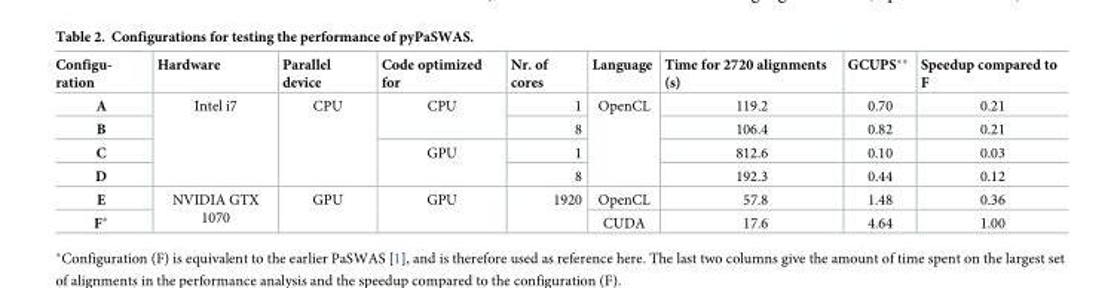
<table><thead><tr><td>Configu- ration</td><td>Hardware</td><td>Parallel device</td><td>Code optimized for</td><td>Nr. of cores</td><td>Language</td><td>Time for 2720 alignments (s)</td><td>GCUPS**</td><td>Speedup compared to F</td></tr></thead><tbody><tr><td>A</td><td rowspan="4">Intel i7</td><td rowspan="4">CPU</td><td rowspan="2">CPU</td><td>1</td><td rowspan="4">OpenCL</td><td>119.2</td><td>0.70</td><td>0.21</td></tr><tr><td>B</td><td>8</td><td>106.4</td><td>0.82</td><td>0.21</td></tr><tr><td>C</td><td rowspan="2">GPU</td><td>1</td><td>812.6</td><td>0.10</td><td>0.03</td></tr><tr><td>D</td><td>8</td><td>192.3</td><td>0.44</td><td>0.12</td></tr><tr><td>E</td><td rowspan="2">NVIDIA GTX 1070</td><td rowspan="2">GPU</td><td rowspan="2">GPU</td><td rowspan="2">1920</td><td>OpenCL</td><td>57.8</td><td>1.48</td><td>0.36</td></tr><tr><td>F*</td><td>CUDA</td><td>17.6</td><td>4.64</td><td>1.00</td></tr></tbody></table>